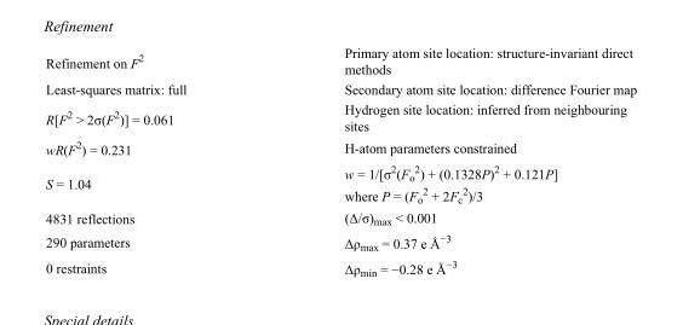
<table><tbody><tr><td>Refinement on F<sup>2</sup></td><td>Primary atom site location: structure-invariant direct methods</td></tr><tr><td>Least-squares matrix: full</td><td>Secondary atom site location: difference Fourier map</td></tr><tr><td>R[F<sup>2</sup> &gt; 2σ(F<sup>2</sup>)] = 0.061</td><td>Hydrogen site location: inferred from neighbouring sites</td></tr><tr><td>wR(F<sup>2</sup>) = 0.231</td><td>H-atom parameters constrained</td></tr><tr><td>S = 1.04</td><td>w = 1/[σ<sup>2</sup>(F<sub>o</sub> <sup>2</sup>) + (0.1328P)<sup>2</sup> + 0.121P] where P = (F<sub>o</sub> <sup>2</sup> + 2F<sub>c</sub> <sup>2</sup>)/3</td></tr><tr><td>4831 reflections</td><td>(Δ/σ)<sub>max</sub> &lt; 0.001</td></tr><tr><td>290 parameters</td><td>Δρ<sub>max</sub> = 0.37 e Å<sup>−3</sup></td></tr><tr><td>0 restraints</td><td>Δρ<sub>min</sub> = −0.28 e Å<sup>−3</sup></td></tr></tbody></table>